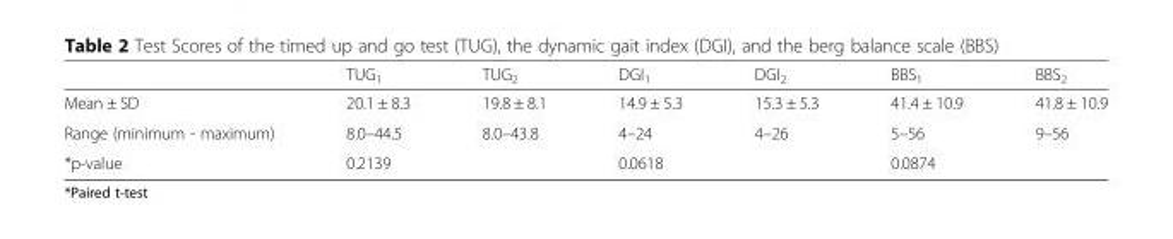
<table><thead><tr><td></td><td>TUG<sub>1</sub></td><td>TUG<sub>2</sub></td><td>DGI<sub>1</sub></td><td>DGI<sub>2</sub></td><td>BBS<sub>1</sub></td><td>BBS<sub>2</sub></td></tr></thead><tbody><tr><td>Mean ± SD</td><td>20.1 ± 8.3</td><td>19.8 ± 8.1</td><td>14.9 ± 5.3</td><td>15.3 ± 5.3</td><td>41.4 ± 10.9</td><td>41.8 ± 10.9</td></tr><tr><td>Range (minimum - maximum)</td><td>8.0–44.5</td><td>8.0–43.8</td><td>4–24</td><td>4–26</td><td>5–56</td><td>9–56</td></tr><tr><td>*p-value</td><td colspan="2">0.2139</td><td colspan="2">0.0618</td><td colspan="2">0.0874</td></tr></tbody></table>